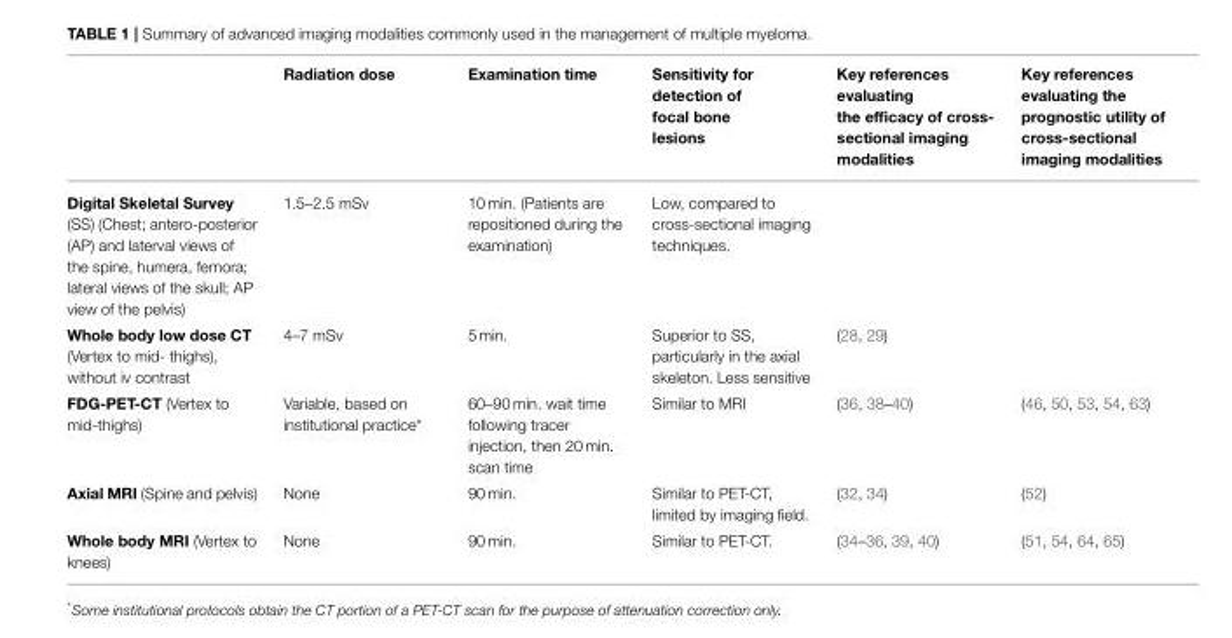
<table><thead><tr><td></td><td>Radiation dose</td><td>Examination time</td><td>Sensitivity for detection of focal bone lesions</td><td>Key references evaluating the efficacy of cross- sectional imaging modalities</td><td>Key references evaluating the prognostic utility of cross-sectional imaging modalities</td></tr></thead><tbody><tr><td>Digital Skeletal Survey (SS) (Chest; antero-posterior (AP) and laterval views of the spine, humera, femora; lateral views of the skull; AP view of the pelvis)</td><td>1.5–2.5 mSv</td><td>10 min. (Patients are repositioned during the examination)</td><td>Low, compared to cross-sectional imaging techniques.</td><td></td><td></td></tr><tr><td>Whole body low dose CT (Vertex to mid- thighs), without iv contrast</td><td>4–7 mSv</td><td>5 min.</td><td>Superior to SS, particularly in the axial skeleton. Less sensitive</td><td>(28, 29)</td><td></td></tr><tr><td>FDG-PET-CT (Vertex to mid-thighs)</td><td>Variable, based on institutional practice*</td><td>60–90 min. wait time following tracer injection, then 20 min. scan time</td><td>Similar to MRI</td><td>(36, 38–40)</td><td>(46, 50, 53, 54, 63)</td></tr><tr><td>Axial MRI (Spine and pelvis)</td><td>None</td><td>90 min.</td><td>Similar to PET-CT, limited by imaging field.</td><td>(32, 34)</td><td>(52)</td></tr><tr><td>Whole body MRI (Vertex to knees)</td><td>None</td><td>90 min.</td><td>Similar to PET-CT.</td><td>(34–36, 39, 40)</td><td>(51, 54, 64, 65)</td></tr></tbody></table>